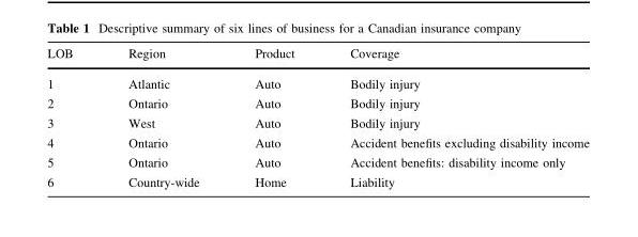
<table><thead><tr><td>LOB</td><td>Region</td><td>Product</td><td>Coverage</td></tr></thead><tbody><tr><td>1</td><td>Atlantic</td><td>Auto</td><td>Bodily injury</td></tr><tr><td>2</td><td>Ontario</td><td>Auto</td><td>Bodily injury</td></tr><tr><td>3</td><td>West</td><td>Auto</td><td>Bodily injury</td></tr><tr><td>4</td><td>Ontario</td><td>Auto</td><td>Accident benefits excluding disability income</td></tr><tr><td>5</td><td>Ontario</td><td>Auto</td><td>Accident benefits: disability income only</td></tr><tr><td>6</td><td>Country-wide</td><td>Home</td><td>Liability</td></tr></tbody></table>